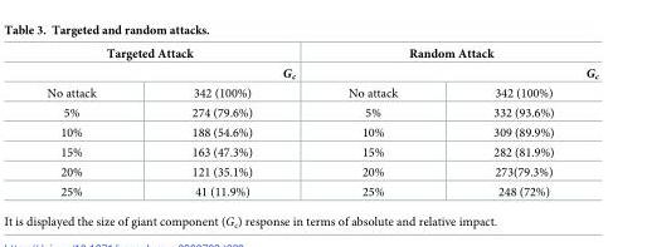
<table><thead><tr><td rowspan="2" colspan="2">Targeted Attack G<sub>c</sub></td><td rowspan="2" colspan="2">Random Attack G<sub>c</sub></td></tr><tr></tr><tr><td>No attack</td><td>342 (100%)</td><td>No attack</td><td>342 (100%)</td></tr></thead><tbody><tr><td>5%</td><td>274 (79.6%)</td><td>5%</td><td>332 (93.6%)</td></tr><tr><td>10%</td><td>188 (54.6%)</td><td>10%</td><td>309 (89.9%)</td></tr><tr><td>15%</td><td>163 (47.3%)</td><td>15%</td><td>282 (81.9%)</td></tr><tr><td>20%</td><td>121 (35.1%)</td><td>20%</td><td>273(79.3%)</td></tr><tr><td>25%</td><td>41 (11.9%)</td><td>25%</td><td>248 (72%)</td></tr></tbody></table>